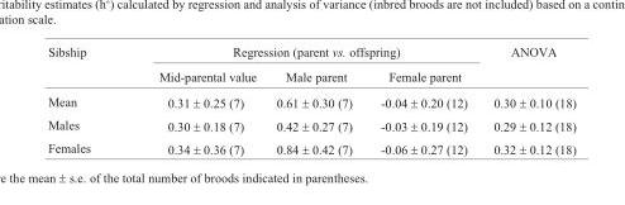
<table><thead><tr><td rowspan="2">Sibship</td><td colspan="3">Regression (parent vs. offspring)</td><td rowspan="2">ANOVA</td></tr><tr><td>Mid-parental value</td><td>Male parent</td><td>Female parent</td></tr></thead><tbody><tr><td>Mean</td><td>0.31 ± 0.25 (7)</td><td>0.61 ± 0.30 (7)</td><td>-0.04 ± 0.20 (12)</td><td>0.30 ± 0.10 (18)</td></tr><tr><td>Males</td><td>0.30 ± 0.18 (7)</td><td>0.42 ± 0.27 (7)</td><td>-0.03 ± 0.19 (12)</td><td>0.29 ± 0.12 (18)</td></tr><tr><td>Females</td><td>0.34 ± 0.36 (7)</td><td>0.84 ± 0.42 (7)</td><td>-0.06 ± 0.27 (12)</td><td>0.32 ± 0.12 (18)</td></tr></tbody></table>